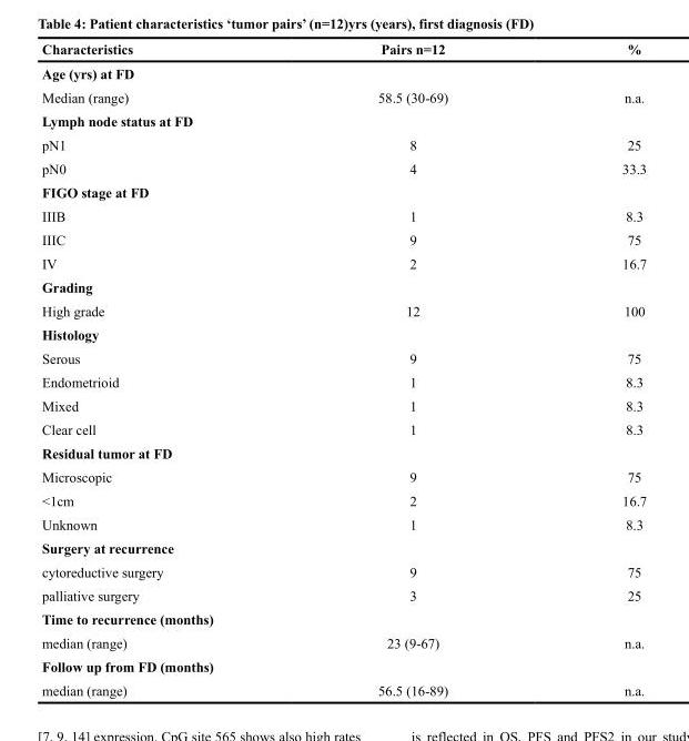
<table><thead><tr><td>Characteristics</td><td>Pairs n=12</td><td>%</td></tr></thead><tbody><tr><td colspan="3">Age (yrs) at FD</td></tr><tr><td>Median (range)</td><td>58.5 (30-69)</td><td>n.a.</td></tr><tr><td colspan="3">Lymph node status at FD</td></tr><tr><td>pN1</td><td>8</td><td>25</td></tr><tr><td>pN0</td><td>4</td><td>33.3</td></tr><tr><td colspan="3">FIGO stage at FD</td></tr><tr><td>IIIB</td><td>1</td><td>8.3</td></tr><tr><td>IIIC</td><td>9</td><td>75</td></tr><tr><td>IV</td><td>2</td><td>16.7</td></tr><tr><td colspan="3">Grading</td></tr><tr><td>High grade</td><td>12</td><td>100</td></tr><tr><td colspan="3">Histology</td></tr><tr><td>Serous</td><td>9</td><td>75</td></tr><tr><td>Endometrioid</td><td>1</td><td>8.3</td></tr><tr><td>Mixed</td><td>1</td><td>8.3</td></tr><tr><td>Clear cell</td><td>1</td><td>8.3</td></tr><tr><td colspan="3">Residual tumor at FD</td></tr><tr><td>Microscopic</td><td>9</td><td>75</td></tr><tr><td>&lt;1cm</td><td>2</td><td>16.7</td></tr><tr><td>Unknown</td><td>1</td><td>8.3</td></tr><tr><td colspan="3">Surgery at recurrence</td></tr><tr><td>cytoreductive surgery</td><td>9</td><td>75</td></tr><tr><td>palliative surgery</td><td>3</td><td>25</td></tr><tr><td colspan="3">Time to recurrence (months)</td></tr><tr><td>median (range)</td><td>23 (9-67)</td><td>n.a.</td></tr><tr><td colspan="3">Follow up from FD (months)</td></tr><tr><td>median (range)</td><td>56.5 (16-89)</td><td>n.a.</td></tr></tbody></table>